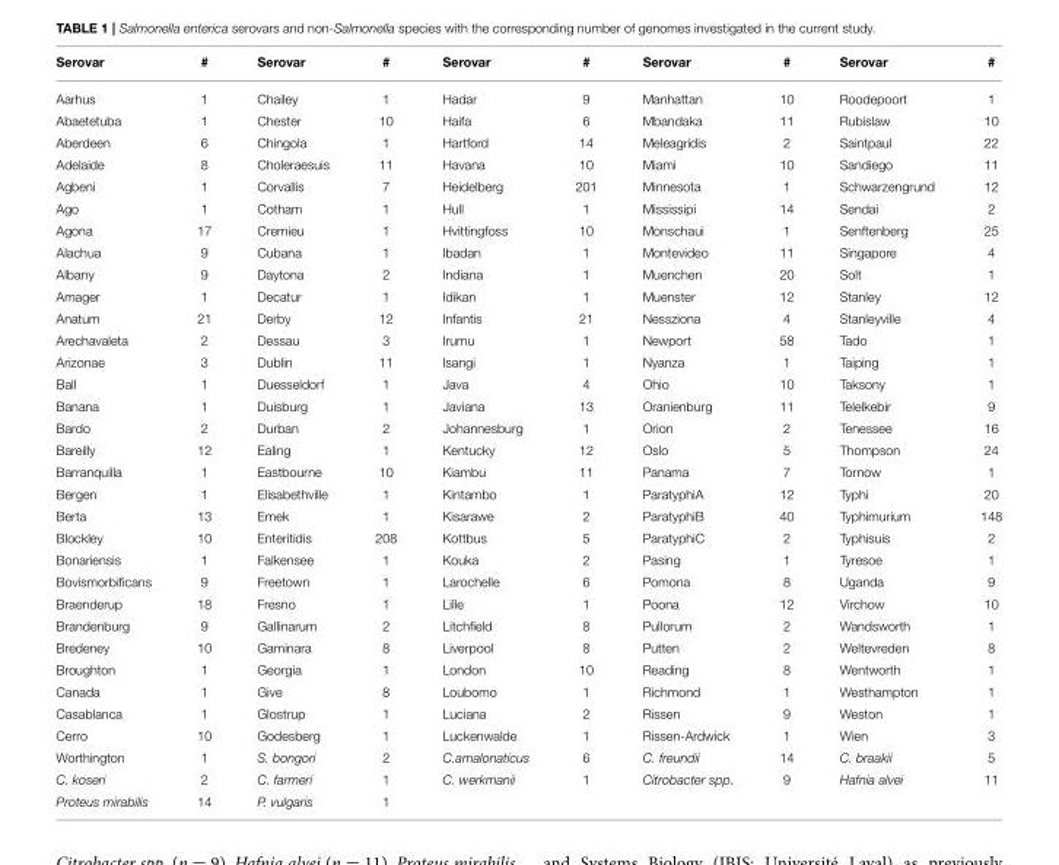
<table><thead><tr><td>Serovar</td><td>#</td><td>Serovar</td><td>#</td><td>Serovar</td><td>#</td><td>Serovar</td><td>#</td><td>Serovar</td><td>#</td></tr></thead><tbody><tr><td>Aarhus</td><td>1</td><td>Chailey</td><td>1</td><td>Hadar</td><td>9</td><td>Manhattan</td><td>10</td><td>Roodepoort</td><td>1</td></tr><tr><td>Abaetetuba</td><td>1</td><td>Chester</td><td>10</td><td>Haifa</td><td>6</td><td>Mbandaka</td><td>11</td><td>Rubislaw</td><td>10</td></tr><tr><td>Aberdeen</td><td>6</td><td>Chingola</td><td>1</td><td>Hartford</td><td>14</td><td>Meleagridis</td><td>2</td><td>Saintpaul</td><td>22</td></tr><tr><td>Adelaide</td><td>8</td><td>Choleraesuis</td><td>11</td><td>Havana</td><td>10</td><td>Miami</td><td>10</td><td>Sandiego</td><td>11</td></tr><tr><td>Agbeni</td><td>1</td><td>Corvallis</td><td>7</td><td>Heidelberg</td><td>201</td><td>Minnesota</td><td>1</td><td>Schwarzengrund</td><td>12</td></tr><tr><td>Ago</td><td>1</td><td>Cotham</td><td>1</td><td>Hull</td><td>1</td><td>Mississipi</td><td>14</td><td>Sendai</td><td>2</td></tr><tr><td>Agona</td><td>17</td><td>Cremieu</td><td>1</td><td>Hvittingfoss</td><td>10</td><td>Monschaui</td><td>1</td><td>Senftenberg</td><td>25</td></tr><tr><td>Alachua</td><td>9</td><td>Cubana</td><td>1</td><td>Ibadan</td><td>1</td><td>Montevideo</td><td>11</td><td>Singapore</td><td>4</td></tr><tr><td>Albany</td><td>9</td><td>Daytona</td><td>2</td><td>Indiana</td><td>1</td><td>Muenchen</td><td>20</td><td>Solt</td><td>1</td></tr><tr><td>Amager</td><td>1</td><td>Decatur</td><td>1</td><td>Idikan</td><td>1</td><td>Muenster</td><td>12</td><td>Stanley</td><td>12</td></tr><tr><td>Anatum</td><td>21</td><td>Derby</td><td>12</td><td>Infantis</td><td>21</td><td>Nessziona</td><td>4</td><td>Stanleyville</td><td>4</td></tr><tr><td>Arechavaleta</td><td>2</td><td>Dessau</td><td>3</td><td>Irumu</td><td>1</td><td>Newport</td><td>58</td><td>Tado</td><td>1</td></tr><tr><td>Arizonae</td><td>3</td><td>Dublin</td><td>11</td><td>Isangi</td><td>1</td><td>Nyanza</td><td>1</td><td>Taiping</td><td>1</td></tr><tr><td>Ball</td><td>1</td><td>Duesseldorf</td><td>1</td><td>Java</td><td>4</td><td>Ohio</td><td>10</td><td>Taksony</td><td>1</td></tr><tr><td>Banana</td><td>1</td><td>Duisburg</td><td>1</td><td>Javiana</td><td>13</td><td>Oranienburg</td><td>11</td><td>Telelkebir</td><td>9</td></tr><tr><td>Bardo</td><td>2</td><td>Durban</td><td>2</td><td>Johannesburg</td><td>1</td><td>Orion</td><td>2</td><td>Tenessee</td><td>16</td></tr><tr><td>Bareilly</td><td>12</td><td>Ealing</td><td>1</td><td>Kentucky</td><td>12</td><td>Oslo</td><td>5</td><td>Thompson</td><td>24</td></tr><tr><td>Barranquilla</td><td>1</td><td>Eastbourne</td><td>10</td><td>Kiambu</td><td>11</td><td>Panama</td><td>7</td><td>Tornow</td><td>1</td></tr><tr><td>Bergen</td><td>1</td><td>Elisabethville</td><td>1</td><td>Kintambo</td><td>1</td><td>ParatyphiA</td><td>12</td><td>Typhi</td><td>20</td></tr><tr><td>Berta</td><td>13</td><td>Emek</td><td>1</td><td>Kisarawe</td><td>2</td><td>ParatyphiB</td><td>40</td><td>Typhimurium</td><td>148</td></tr><tr><td>Blockley</td><td>10</td><td>Enteritidis</td><td>208</td><td>Kottbus</td><td>5</td><td>ParatyphiC</td><td>2</td><td>Typhisuis</td><td>2</td></tr><tr><td>Bonariensis</td><td>1</td><td>Falkensee</td><td>1</td><td>Kouka</td><td>2</td><td>Pasing</td><td>1</td><td>Tyresoe</td><td>1</td></tr><tr><td>Bovismorbificans</td><td>9</td><td>Freetown</td><td>1</td><td>Larochelle</td><td>6</td><td>Pomona</td><td>8</td><td>Uganda</td><td>9</td></tr><tr><td>Braenderup</td><td>18</td><td>Fresno</td><td>1</td><td>Lille</td><td>1</td><td>Poona</td><td>12</td><td>Virchow</td><td>10</td></tr><tr><td>Brandenburg</td><td>9</td><td>Gallinarum</td><td>2</td><td>Litchfield</td><td>8</td><td>Pullorum</td><td>2</td><td>Wandsworth</td><td>1</td></tr><tr><td>Bredeney</td><td>10</td><td>Gaminara</td><td>8</td><td>Liverpool</td><td>8</td><td>Putten</td><td>2</td><td>Weltevreden</td><td>8</td></tr><tr><td>Broughton</td><td>1</td><td>Georgia</td><td>1</td><td>London</td><td>10</td><td>Reading</td><td>8</td><td>Wentworth</td><td>1</td></tr><tr><td>Canada</td><td>1</td><td>Give</td><td>8</td><td>Loubomo</td><td>1</td><td>Richmond</td><td>1</td><td>Westhampton</td><td>1</td></tr><tr><td>Casablanca</td><td>1</td><td>Glostrup</td><td>1</td><td>Luciana</td><td>2</td><td>Rissen</td><td>9</td><td>Weston</td><td>1</td></tr><tr><td>Cerro</td><td>10</td><td>Godesberg</td><td>1</td><td>Luckenwalde</td><td>1</td><td>Rissen-Ardwick</td><td>1</td><td>Wien</td><td>3</td></tr><tr><td>Worthington</td><td>1</td><td>S. bongori</td><td>2</td><td>C.amalonaticus</td><td>6</td><td>C. freundii</td><td>14</td><td>C. braakii</td><td>5</td></tr><tr><td>C. koseri</td><td>2</td><td>C. farmeri</td><td>1</td><td>C. werkmanii</td><td>1</td><td>Citrobacter spp.</td><td>9</td><td>Hafnia alvei</td><td>11</td></tr><tr><td>Proteus mirabilis</td><td>14</td><td>P. vulgaris</td><td>1</td><td></td><td></td><td></td><td></td><td></td><td></td></tr></tbody></table>